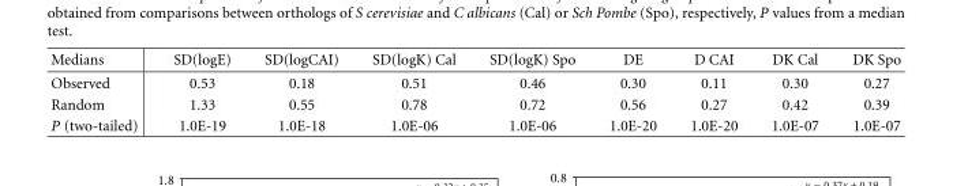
<table><tbody><tr><td>Medians</td><td>SD(logE)</td><td>SD(logCAI)</td><td>SD(logK) Cal</td><td>SD(logK) Spo</td><td>DE</td><td>D CAI</td><td>DK Cal</td><td>DK Spo</td></tr><tr><td>Observed</td><td>0.53</td><td>0.18</td><td>0.51</td><td>0.46</td><td>0.30</td><td>0.11</td><td>0.30</td><td>0.27</td></tr><tr><td>Random</td><td>1.33</td><td>0.55</td><td>0.78</td><td>0.72</td><td>0.56</td><td>0.27</td><td>0.42</td><td>0.39</td></tr><tr><td>P (two-tailed)</td><td>1.0E-19</td><td>1.0E-18</td><td>1.0E-06</td><td>1.0E-06</td><td>1.0E-20</td><td>1.0E-20</td><td>1.0E-07</td><td>1.0E-07</td></tr></tbody></table>